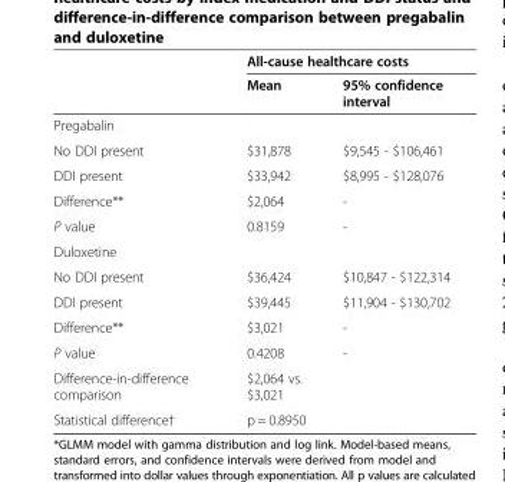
<table><thead><tr><td rowspan="2"></td><td colspan="2">All-cause healthcare costs</td></tr><tr><td>Mean</td><td>95% confidence interval</td></tr></thead><tbody><tr><td colspan="3">Pregabalin</td></tr><tr><td>No DDI present</td><td>$31,878</td><td>$9,545 - $106,461</td></tr><tr><td>DDI present</td><td>$33,942</td><td>$8,995 - $128,076</td></tr><tr><td>Difference**</td><td>$2,064</td><td>-</td></tr><tr><td>P value</td><td>0.8159</td><td>-</td></tr><tr><td colspan="3">Duloxetine</td></tr><tr><td>No DDI present</td><td>$36,424</td><td>$10,847 - $122,314</td></tr><tr><td>DDI present</td><td>$39,445</td><td>$11,904 - $130,702</td></tr><tr><td>Difference**</td><td>$3,021</td><td>-</td></tr><tr><td>P value</td><td>0.4208</td><td>-</td></tr><tr><td>Difference-in-difference comparison</td><td>$2,064 vs. $3,021</td><td rowspan="2"></td></tr><tr><td>Statistical difference†</td><td>p = 0.8950</td></tr></tbody></table>